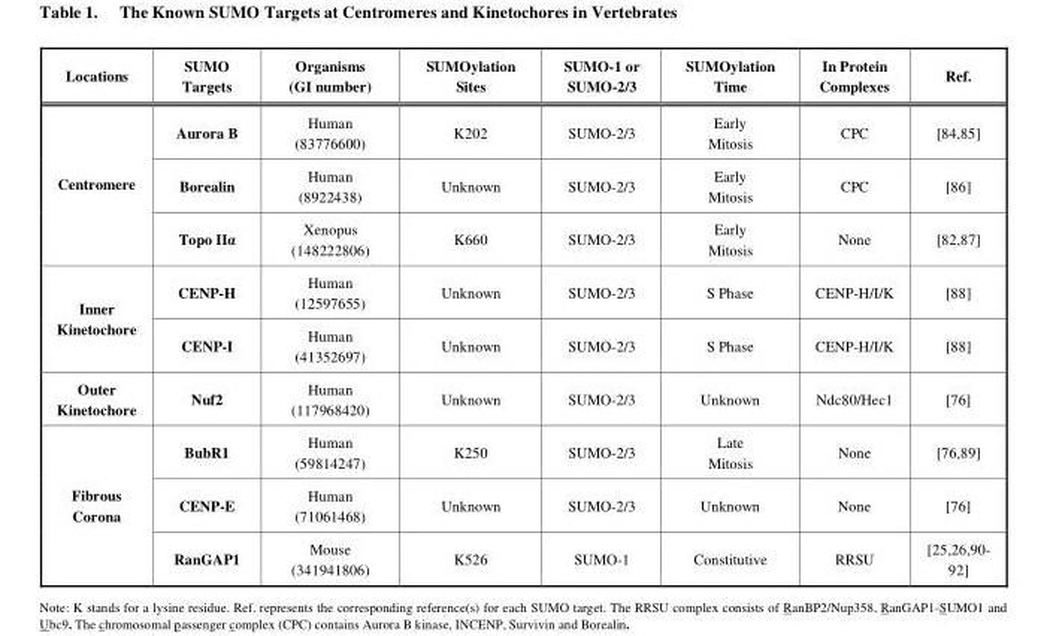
<table><thead><tr><td>Locations</td><td>SUMO Targets</td><td>Organisms (GI number)</td><td>SUMOylation Sites</td><td>SUMO-1 or SUMO-2/3</td><td>SUMOylation Time</td><td>In Protein Complexes</td><td>Ref.</td></tr></thead><tbody><tr><td rowspan="3">Centromere</td><td>Aurora B</td><td>Human (83776600)</td><td>K202</td><td>SUMO-2/3</td><td>Early Mitosis</td><td>CPC</td><td>[84,85]</td></tr><tr><td>Borealin</td><td>Human (8922438)</td><td>Unknown</td><td>SUMO-2/3</td><td>Early Mitosis</td><td>CPC</td><td>[86]</td></tr><tr><td>Topo IIα</td><td>Xenopus (148222806)</td><td>K660</td><td>SUMO-2/3</td><td>Early Mitosis</td><td>None</td><td>[82,87]</td></tr><tr><td rowspan="2">Inner Kinetochore</td><td>CENP-H</td><td>Human (12597655)</td><td>Unknown</td><td>SUMO-2/3</td><td>S Phase</td><td>CENP-H/I/K</td><td>[88]</td></tr><tr><td>CENP-I</td><td>Human (41352697)</td><td>Unknown</td><td>SUMO-2/3</td><td>S Phase</td><td>CENP-H/I/K</td><td>[88]</td></tr><tr><td>Outer Kinetochore</td><td>Nuf2</td><td>Human (117968420)</td><td>Unknown</td><td>SUMO-2/3</td><td>Unknown</td><td>Ndc80/Hec1</td><td>[76]</td></tr><tr><td rowspan="3">Fibrous Corona</td><td>BubR1</td><td>Human (59814247)</td><td>K250</td><td>SUMO-2/3</td><td>Late Mitosis</td><td>None</td><td>[76,89]</td></tr><tr><td>CENP-E</td><td>Human (71061468)</td><td>Unknown</td><td>SUMO-2/3</td><td>Unknown</td><td>None</td><td>[76]</td></tr><tr><td>RanGAP1</td><td>Mouse (341941806)</td><td>K526</td><td>SUMO-1</td><td>Constitutive</td><td>RRSU</td><td>[25,26,90- 92]</td></tr></tbody></table>